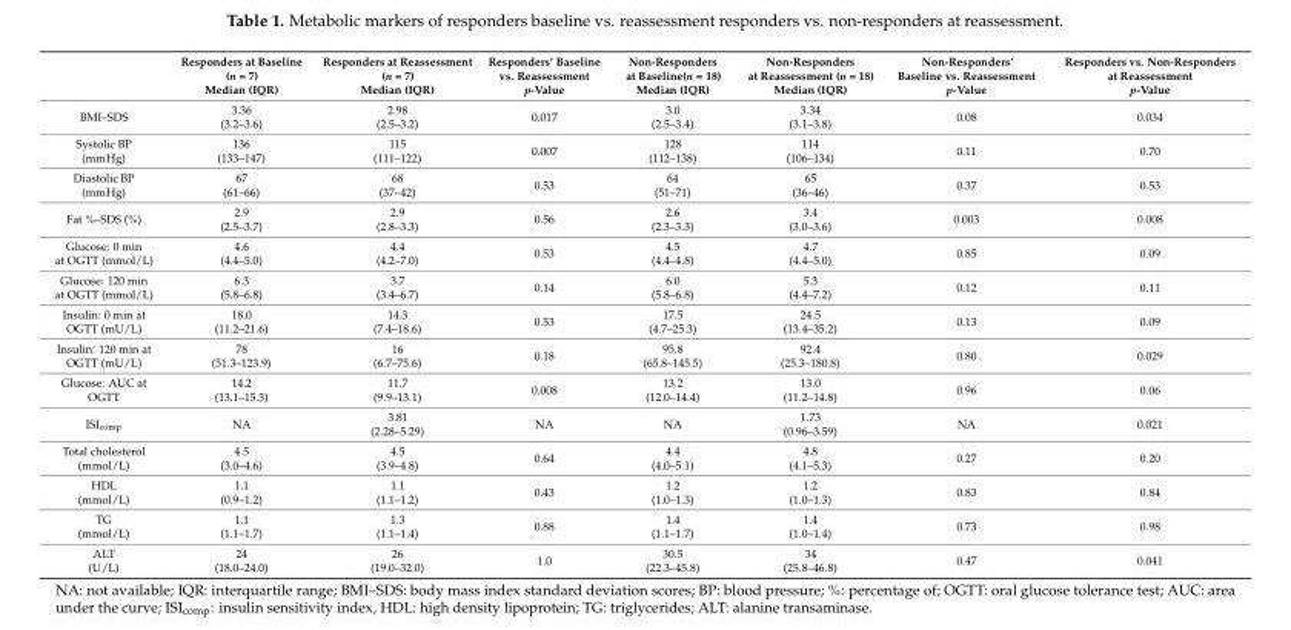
<table><thead><tr><td></td><td>Responders at Baseline (n = 7) Median (IQR)</td><td>Responders at Reassessment (n = 7) Median (IQR)</td><td>Responders’ Baseline vs. Reassessment p-Value</td><td>Non-Responders at Baseline(n = 18) Median (IQR)</td><td>Non-Responders at Reassessment (n = 18) Median (IQR)</td><td>Non-Responders’ Baseline vs. Reassessment p-Value</td><td>Responders vs. Non-Responders at Reassessment p-Value</td></tr></thead><tbody><tr><td>BMI–SDS</td><td>3.36 (3.2–3.6)</td><td>2.98 (2.5–3.2)</td><td>0.017</td><td>3.0 (2.5–3.4)</td><td>3.34 (3.1–3.8)</td><td>0.08</td><td>0.034</td></tr><tr><td>Systolic BP (mmHg)</td><td>136 (133–147)</td><td>115 (111–122)</td><td>0.007</td><td>128 (112–138)</td><td>114 (106–134)</td><td>0.11</td><td>0.70</td></tr><tr><td>Diastolic BP (mmHg)</td><td>67 (61–66)</td><td>68 (37–42)</td><td>0.53</td><td>64 (51–71)</td><td>65 (36–46)</td><td>0.37</td><td>0.53</td></tr><tr><td>Fat %–SDS (%)</td><td>2.9 (2.5–3.7)</td><td>2.9 (2.8–3.3)</td><td>0.56</td><td>2.6 (2.3–3.3)</td><td>3.4 (3.0–3.6)</td><td>0.003</td><td>0.008</td></tr><tr><td>Glucose: 0 min at OGTT (mmol/L)</td><td>4.6 (4.4–5.0)</td><td>4.4 (4.2–7.0)</td><td>0.53</td><td>4.5 (4.4–4.8)</td><td>4.7 (4.4–5.0)</td><td>0.85</td><td>0.09</td></tr><tr><td>Glucose: 120 min at OGTT (mmol/L)</td><td>6.3 (5.8–6.8)</td><td>3.7 (3.4–6.7)</td><td>0.14</td><td>6.0 (5.8–6.8)</td><td>5.3 (4.4–7.2)</td><td>0.12</td><td>0.11</td></tr><tr><td>Insulin: 0 min at OGTT (mU/L)</td><td>18.0 (11.2–21.6)</td><td>14.3 (7.4–18.6)</td><td>0.53</td><td>17.5 (4.7–25.3)</td><td>24.5 (13.4–35.2)</td><td>0.13</td><td>0.09</td></tr><tr><td>Insulin: 120 min at OGTT (mU/L)</td><td>78 (51.3–123.9)</td><td>16 (6.7–75.6)</td><td>0.18</td><td>95.8 (65.8–145.5)</td><td>92.4 (25.3–180.8)</td><td>0.80</td><td>0.029</td></tr><tr><td>Glucose: AUC at OGTT</td><td>14.2 (13.1–15.3)</td><td>11.7 (9.9–13.1)</td><td>0.008</td><td>13.2 (12.0–14.4)</td><td>13.0 (11.2–14.8)</td><td>0.96</td><td>0.06</td></tr><tr><td>ISI<sub>comp</sub></td><td>NA</td><td>3.81 (2.28–5.29)</td><td>NA</td><td>NA</td><td>1.73 (0.96–3.59)</td><td>NA</td><td>0.021</td></tr><tr><td>Total cholesterol (mmol/L)</td><td>4.5 (3.0–4.6)</td><td>4.5 (3.9–4.8)</td><td>0.64</td><td>4.4 (4.0–5.1)</td><td>4.8 (4.1–5.3)</td><td>0.27</td><td>0.20</td></tr><tr><td>HDL (mmol/L)</td><td>1.1 (0.9–1.2)</td><td>1.1 (1.1–1.2)</td><td>0.43</td><td>1.2 (1.0–1.3)</td><td>1.2 (1.0–1.3)</td><td>0.83</td><td>0.84</td></tr><tr><td>TG (mmol/L)</td><td>1.1 (1.1–1.7)</td><td>1.3 (1.1–1.4)</td><td>0.88</td><td>1.4 (1.1–1.7)</td><td>1.4 (1.0–1.4)</td><td>0.73</td><td>0.98</td></tr><tr><td>ALT (U/L)</td><td>24 (18.0–24.0)</td><td>26 (19.0–32.0)</td><td>1.0</td><td>30.5 (22.3–45.8)</td><td>34 (25.8–46.8)</td><td>0.47</td><td>0.041</td></tr></tbody></table>